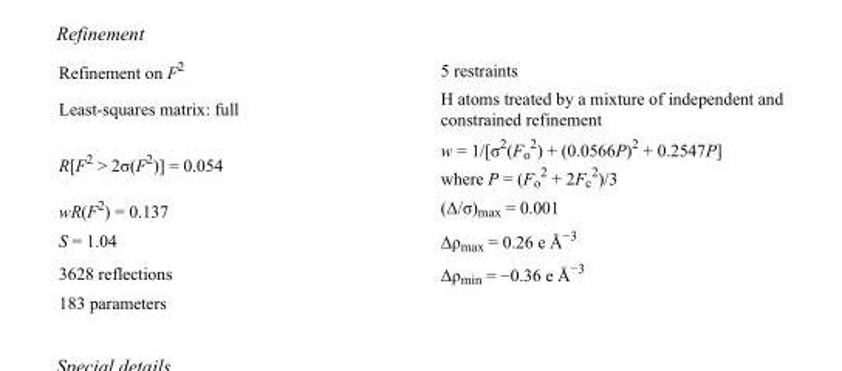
<table><tbody><tr><td>Refinement on F<sup>2</sup></td><td>5 restraints</td></tr><tr><td>Least-squares matrix: full</td><td>H atoms treated by a mixture of independent and constrained refinement</td></tr><tr><td>R[F<sup>2</sup> &gt; 2σ(F<sup>2</sup>)] = 0.054</td><td>w = 1/[σ<sup>2</sup>(F<sub>o</sub> <sup>2</sup>) + (0.0566P)<sup>2</sup> + 0.2547P] where P = (F<sub>o</sub> <sup>2</sup> + 2F<sub>c</sub> <sup>2</sup>)/3</td></tr><tr><td>wR(F<sup>2</sup>) = 0.137</td><td>(Δ/σ)<sub>max</sub> = 0.001</td></tr><tr><td>S = 1.04</td><td>Δρ<sub>max</sub> = 0.26 e Å<sup>−3</sup></td></tr><tr><td>3628 reflections</td><td>Δρ<sub>min</sub> = −0.36 e Å<sup>−3</sup></td></tr><tr><td>183 parameters</td><td></td></tr></tbody></table>